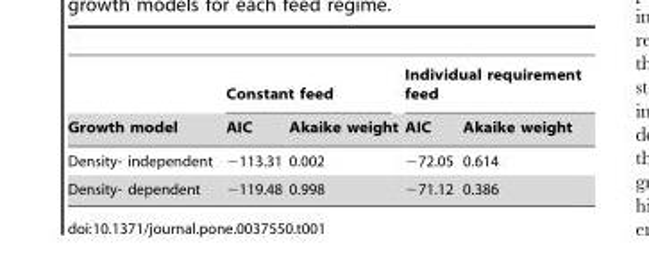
<table><thead><tr><td rowspan="2">Growth model</td><td colspan="2">Constant feed</td><td colspan="2">Individual requirement feed</td></tr><tr><td>AIC</td><td>Akaike weight</td><td>AIC</td><td>Akaike weight</td></tr></thead><tbody><tr><td>Density- independent</td><td>−113.31</td><td>0.002</td><td>−72.05</td><td>0.614</td></tr><tr><td>Density- dependent</td><td>−119.48</td><td>0.998</td><td>−71.12</td><td>0.386</td></tr></tbody></table>